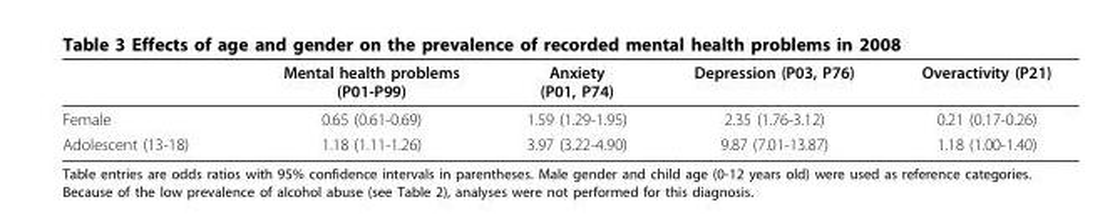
<table><thead><tr><td></td><td>Mental health problems (P01-P99)</td><td>Anxiety (P01, P74)</td><td>Depression (P03, P76)</td><td>Overactivity (P21)</td></tr></thead><tbody><tr><td>Female</td><td>0.65 (0.61-0.69)</td><td>1.59 (1.29-1.95)</td><td>2.35 (1.76-3.12)</td><td>0.21 (0.17-0.26)</td></tr><tr><td>Adolescent (13-18)</td><td>1.18 (1.11-1.26)</td><td>3.97 (3.22-4.90)</td><td>9.87 (7.01-13.87)</td><td>1.18 (1.00-1.40)</td></tr></tbody></table>